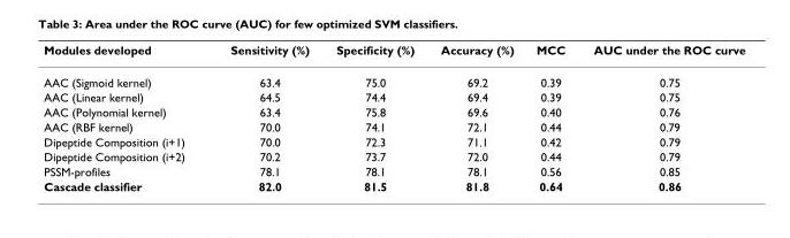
<table><thead><tr><td>Modules developed</td><td>Sensitivity (%)</td><td>Specificity (%)</td><td>Accuracy (%)</td><td>MCC</td><td>AUC under the ROC curve</td></tr></thead><tbody><tr><td>AAC (Sigmoid kernel)</td><td>63.4</td><td>75.0</td><td>69.2</td><td>0.39</td><td>0.75</td></tr><tr><td>AAC (Linear kernel)</td><td>64.5</td><td>74.4</td><td>69.4</td><td>0.39</td><td>0.75</td></tr><tr><td>AAC (Polynomial kernel)</td><td>63.4</td><td>75.8</td><td>69.6</td><td>0.40</td><td>0.76</td></tr><tr><td>AAC (RBF kernel)</td><td>70.0</td><td>74.1</td><td>72.1</td><td>0.44</td><td>0.79</td></tr><tr><td>Dipeptide Composition (i+1)</td><td>70.0</td><td>72.3</td><td>71.1</td><td>0.42</td><td>0.79</td></tr><tr><td>Dipeptide Composition (i+2)</td><td>70.2</td><td>73.7</td><td>72.0</td><td>0.44</td><td>0.79</td></tr><tr><td>PSSM-profiles</td><td>78.1</td><td>78.1</td><td>78.1</td><td>0.56</td><td>0.85</td></tr><tr><td>Cascade classifier</td><td>82.0</td><td>81.5</td><td>81.8</td><td>0.64</td><td>0.86</td></tr></tbody></table>